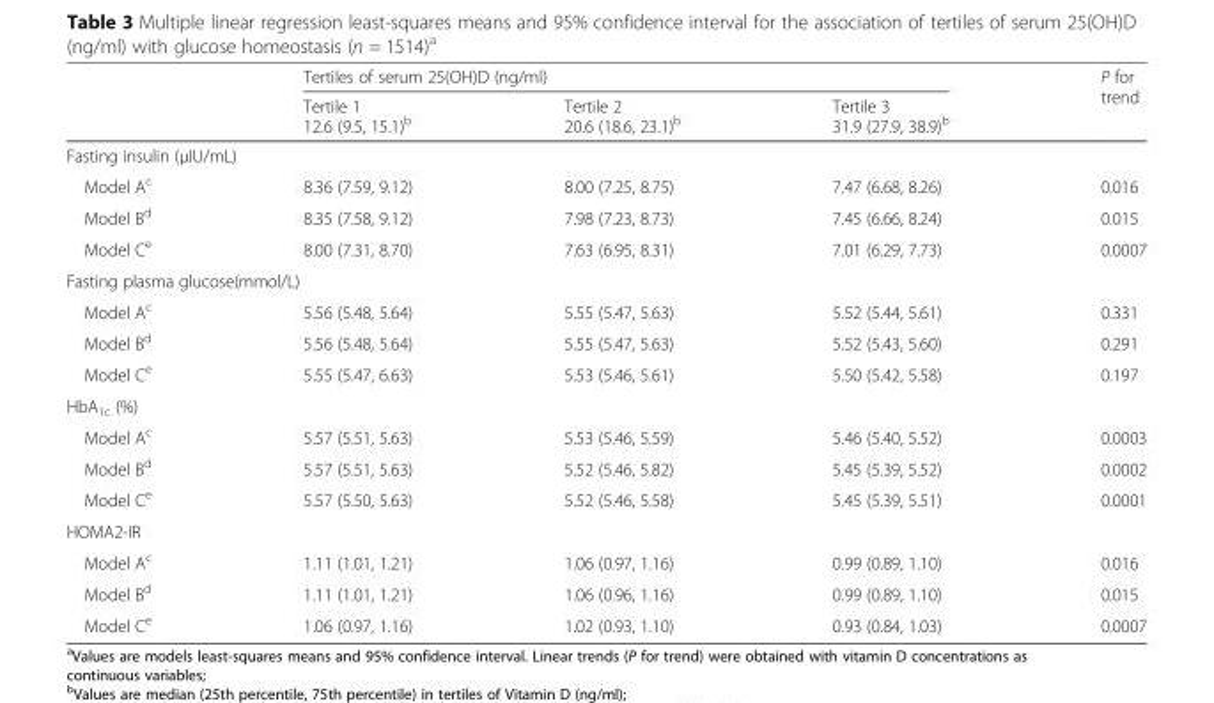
<table><thead><tr><td rowspan="2"></td><td colspan="3">Tertiles of serum 25(OH)D (ng/ml)</td><td rowspan="2">P for trend</td></tr><tr><td>Tertile 1 12.6 (9.5, 15.1)<sup>b</sup></td><td>Tertile 2 20.6 (18.6, 23.1)<sup>b</sup></td><td>Tertile 3 31.9 (27.9, 38.9)<sup>b</sup></td></tr></thead><tbody><tr><td colspan="5">Fasting insulin (μIU/mL)</td></tr><tr><td>Model A<sup>c</sup></td><td>8.36 (7.59, 9.12)</td><td>8.00 (7.25, 8.75)</td><td>7.47 (6.68, 8.26)</td><td>0.016</td></tr><tr><td>Model B<sup>d</sup></td><td>8.35 (7.58, 9.12)</td><td>7.98 (7.23, 8.73)</td><td>7.45 (6.66, 8.24)</td><td>0.015</td></tr><tr><td>Model C<sup>e</sup></td><td>8.00 (7.31, 8.70)</td><td>7.63 (6.95, 8.31)</td><td>7.01 (6.29, 7.73)</td><td>0.0007</td></tr><tr><td colspan="5">Fasting plasma glucose(mmol/L)</td></tr><tr><td>Model A<sup>c</sup></td><td>5.56 (5.48, 5.64)</td><td>5.55 (5.47, 5.63)</td><td>5.52 (5.44, 5.61)</td><td>0.331</td></tr><tr><td>Model B<sup>d</sup></td><td>5.56 (5.48, 5.64)</td><td>5.55 (5.47, 5.63)</td><td>5.52 (5.43, 5.60)</td><td>0.291</td></tr><tr><td>Model C<sup>e</sup></td><td>5.55 (5.47, 6.63)</td><td>5.53 (5.46, 5.61)</td><td>5.50 (5.42, 5.58)</td><td>0.197</td></tr><tr><td colspan="5">HbA<sub>1c</sub> (%)</td></tr><tr><td>Model A<sup>c</sup></td><td>5.57 (5.51, 5.63)</td><td>5.53 (5.46, 5.59)</td><td>5.46 (5.40, 5.52)</td><td>0.0003</td></tr><tr><td>Model B<sup>d</sup></td><td>5.57 (5.51, 5.63)</td><td>5.52 (5.46, 5.82)</td><td>5.45 (5.39, 5.52)</td><td>0.0002</td></tr><tr><td>Model C<sup>e</sup></td><td>5.57 (5.50, 5.63)</td><td>5.52 (5.46, 5.58)</td><td>5.45 (5.39, 5.51)</td><td>0.0001</td></tr><tr><td colspan="5">HOMA2-IR</td></tr><tr><td>Model A<sup>c</sup></td><td>1.11 (1.01, 1.21)</td><td>1.06 (0.97, 1.16)</td><td>0.99 (0.89, 1.10)</td><td>0.016</td></tr><tr><td>Model B<sup>d</sup></td><td>1.11 (1.01, 1.21)</td><td>1.06 (0.96, 1.16)</td><td>0.99 (0.89, 1.10)</td><td>0.015</td></tr><tr><td>Model C<sup>e</sup></td><td>1.06 (0.97, 1.16)</td><td>1.02 (0.93, 1.10)</td><td>0.93 (0.84, 1.03)</td><td>0.0007</td></tr></tbody></table>